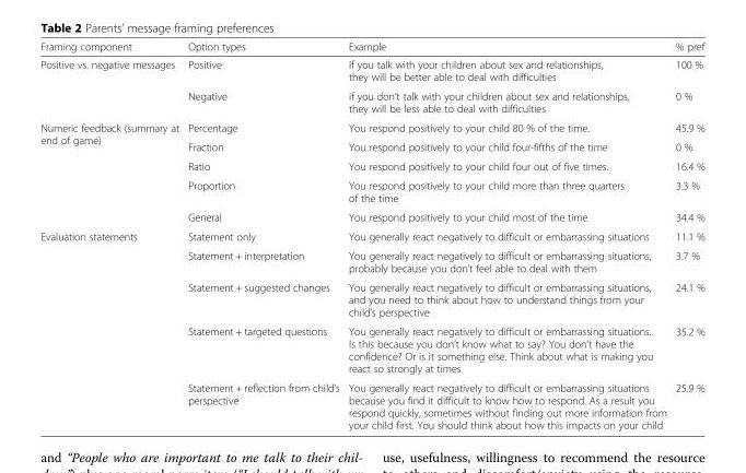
<table><thead><tr><td>Framing component</td><td>Option types</td><td>Example</td><td>% pref</td></tr></thead><tbody><tr><td rowspan="2">Positive vs. negative messages</td><td>Positive</td><td>If you talk with your children about sex and relationships, they will be better able to deal with difficulties</td><td>100 %</td></tr><tr><td>Negative</td><td>if you don’t talk with your children about sex and relationships, they will be less able to deal with difficulties</td><td>0 %</td></tr><tr><td rowspan="5">Numeric feedback (summary at end of game)</td><td>Percentage</td><td>You respond positively to your child 80 % of the time.</td><td>45.9 %</td></tr><tr><td>Fraction</td><td>You respond positively to your child four-fifths of the time</td><td>0 %</td></tr><tr><td>Ratio</td><td>You respond positively to your child four out of five times.</td><td>16.4 %</td></tr><tr><td>Proportion</td><td>You respond positively to your child more than three quarters of the time</td><td>3.3 %</td></tr><tr><td>General</td><td>You respond positively to your child most of the time</td><td>34.4 %</td></tr><tr><td rowspan="5">Evaluation statements</td><td>Statement only</td><td>You generally react negatively to difficult or embarrassing situations</td><td>11.1 %</td></tr><tr><td>Statement + interpretation</td><td>You generally react negatively to difficult or embarrassing situations, probably because you don’t feel able to deal with them</td><td>3.7 %</td></tr><tr><td>Statement + suggested changes</td><td>You generally react negatively to difficult or embarrassing situations, and you need to think about how to understand things from your child’s perspective</td><td>24.1 %</td></tr><tr><td>Statement + targeted questions</td><td>You generally react negatively to difficult or embarrassing situations. Is this because you don’t know what to say? You don’t have the confidence? Or is it something else. Think about what is making you react so strongly at times</td><td>35.2 %</td></tr><tr><td>Statement + reflection from child’s perspective</td><td>You generally react negatively to difficult or embarrassing situations because you find it difficult to know how to respond. As a result you respond quickly, sometimes without finding out more information from your child first. You should think about how this impacts on your child</td><td>25.9 %</td></tr></tbody></table>